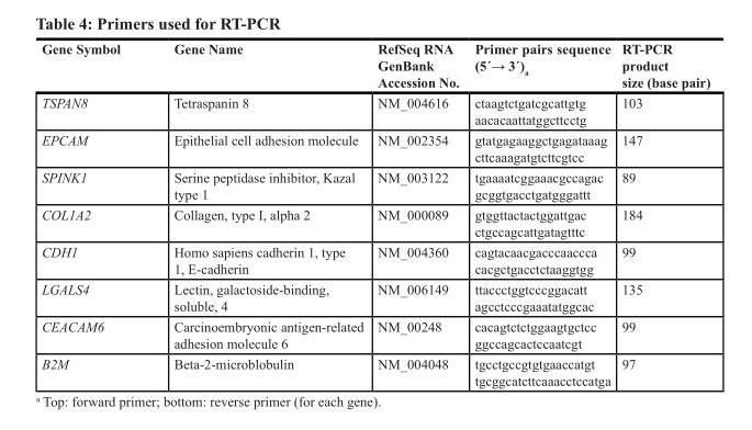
<table><thead><tr><td>Gene Symbol</td><td>Gene Name</td><td>RefSeq RNA GenBank Accession No.</td><td>Primer pairs sequence (5´→ 3´)a</td><td>RT-PCR product size (base pair)</td></tr></thead><tbody><tr><td>TSPAN8</td><td>Tetraspanin 8</td><td>NM_004616</td><td>ctaagtctgatcgcattgtg aacacaattatggcttcctg</td><td>103</td></tr><tr><td>EPCAM</td><td>Epithelial cell adhesion molecule</td><td>NM_002354</td><td>gtatgagaaggctgagataaag cttcaaagatgtcttcgtcc</td><td>147</td></tr><tr><td>SPINK1</td><td>Serine peptidase inhibitor, Kazal type 1</td><td>NM_003122</td><td>tgaaaatcggaaacgccagac gcggtgacctgatgggattt</td><td>89</td></tr><tr><td>COL1A2</td><td>Collagen, type I, alpha 2</td><td>NM_000089</td><td>gtggttactactggattgac ctgccagcattgatagtttc</td><td>184</td></tr><tr><td>CDH1</td><td>Homo sapiens cadherin 1, type 1, E-cadherin</td><td>NM_004360</td><td>cagtacaacgacccaaccca cacgctgacctctaaggtgg</td><td>99</td></tr><tr><td>LGALS4</td><td>Lectin, galactoside-binding, soluble, 4</td><td>NM_006149</td><td>ttaccctggtcccggacatt agcctcccgaaatatggcac</td><td>135</td></tr><tr><td>CEACAM6</td><td>Carcinoembryonic antigen-related adhesion molecule 6</td><td>NM_00248</td><td>cacagtctctggaagtgctcc ggccagcactccaatcgt</td><td>99</td></tr><tr><td>B2M</td><td>Beta-2-microblobulin</td><td>NM_004048</td><td>tgcctgccgtgtgaaccatgt tgcggcatcttcaaacctccatga</td><td>97</td></tr></tbody></table>